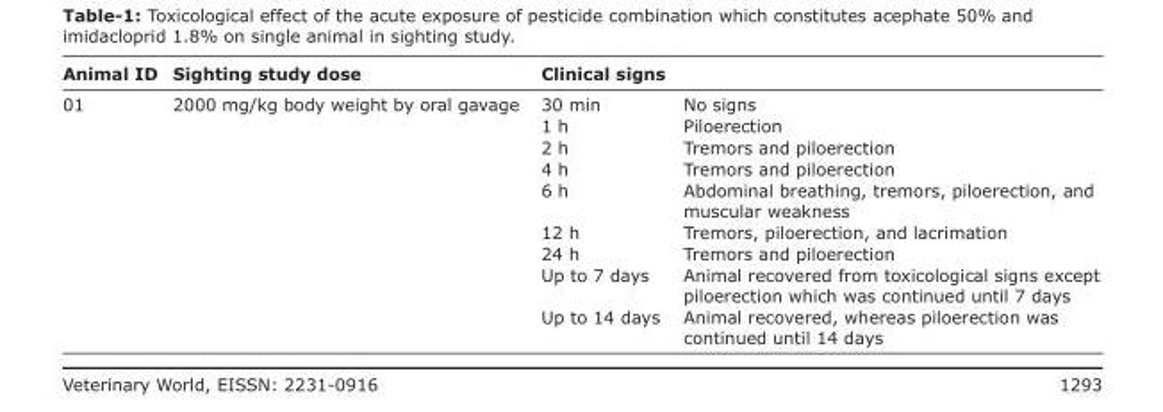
<table><thead><tr><td rowspan="2">Animal ID 01</td><td rowspan="2">Sighting study dose 2000 mg/kg body weight by oral gavage</td><td colspan="2">Clinical signs</td></tr><tr><td>30 min</td><td>No signs</td></tr></thead><tbody><tr><td></td><td></td><td>1 h</td><td>Piloerection</td></tr><tr><td></td><td></td><td>2 h</td><td>Tremors and piloerection</td></tr><tr><td></td><td></td><td>4 h</td><td>Tremors and piloerection</td></tr><tr><td></td><td></td><td>6 h</td><td>Abdominal breathing, tremors, piloerection, and muscular weakness</td></tr><tr><td></td><td></td><td>12 h</td><td>Tremors, piloerection, and lacrimation</td></tr><tr><td></td><td></td><td>24 h</td><td>Tremors and piloerection</td></tr><tr><td></td><td></td><td>Up to 7 days</td><td>Animal recovered from toxicological signs except piloerection which was continued until 7 days</td></tr><tr><td></td><td></td><td>Up to 14 days</td><td>Animal recovered, whereas piloerection was continued until 14 days</td></tr></tbody></table>